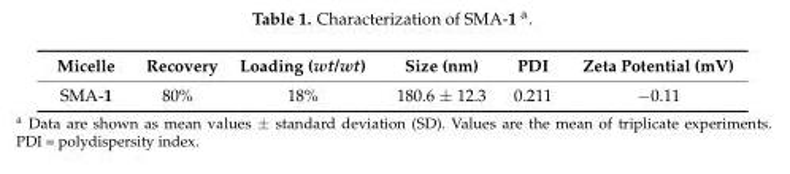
<table><thead><tr><td>Micelle</td><td>Recovery</td><td>Loading (wt/wt)</td><td>Size (nm)</td><td>PDI</td><td>Zeta Potential (mV)</td></tr></thead><tbody><tr><td>SMA-1</td><td>80%</td><td>18%</td><td>180.6 ± 12.3</td><td>0.211</td><td>−0.11</td></tr></tbody></table>